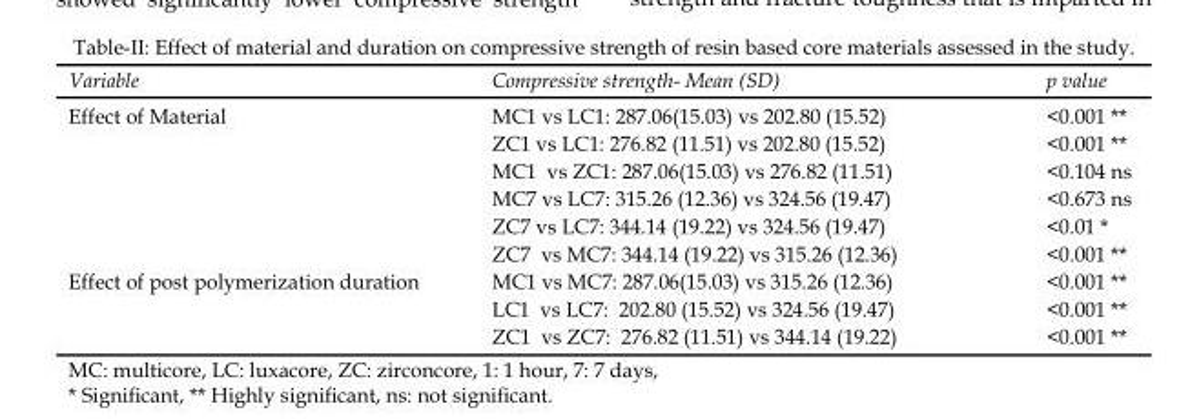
<table><thead><tr><td>Variable</td><td>Compressive strength- Mean (SD)</td><td>p value</td></tr></thead><tbody><tr><td rowspan="6">Effect of Material</td><td>MC1 vs LC1: 287.06(15.03) vs 202.80 (15.52)</td><td>&lt;0.001 **</td></tr><tr><td>ZC1 vs LC1: 276.82 (11.51) vs 202.80 (15.52)</td><td>&lt;0.001 **</td></tr><tr><td>MC1 vs ZC1: 287.06(15.03) vs 276.82 (11.51)</td><td>&lt;0.104 ns</td></tr><tr><td>MC7 vs LC7: 315.26 (12.36) vs 324.56 (19.47)</td><td>&lt;0.673 ns</td></tr><tr><td>ZC7 vs LC7: 344.14 (19.22) vs 324.56 (19.47)</td><td>&lt;0.01 *</td></tr><tr><td>ZC7 vs MC7: 344.14 (19.22) vs 315.26 (12.36)</td><td>&lt;0.001 **</td></tr><tr><td rowspan="3">Effect of post polymerization duration</td><td>MC1 vs MC7: 287.06(15.03) vs 315.26 (12.36)</td><td>&lt;0.001 **</td></tr><tr><td>LC1 vs LC7: 202.80 (15.52) vs 324.56 (19.47)</td><td>&lt;0.001 **</td></tr><tr><td>ZC1 vs ZC7: 276.82 (11.51) vs 344.14 (19.22)</td><td>&lt;0.001 **</td></tr></tbody></table>